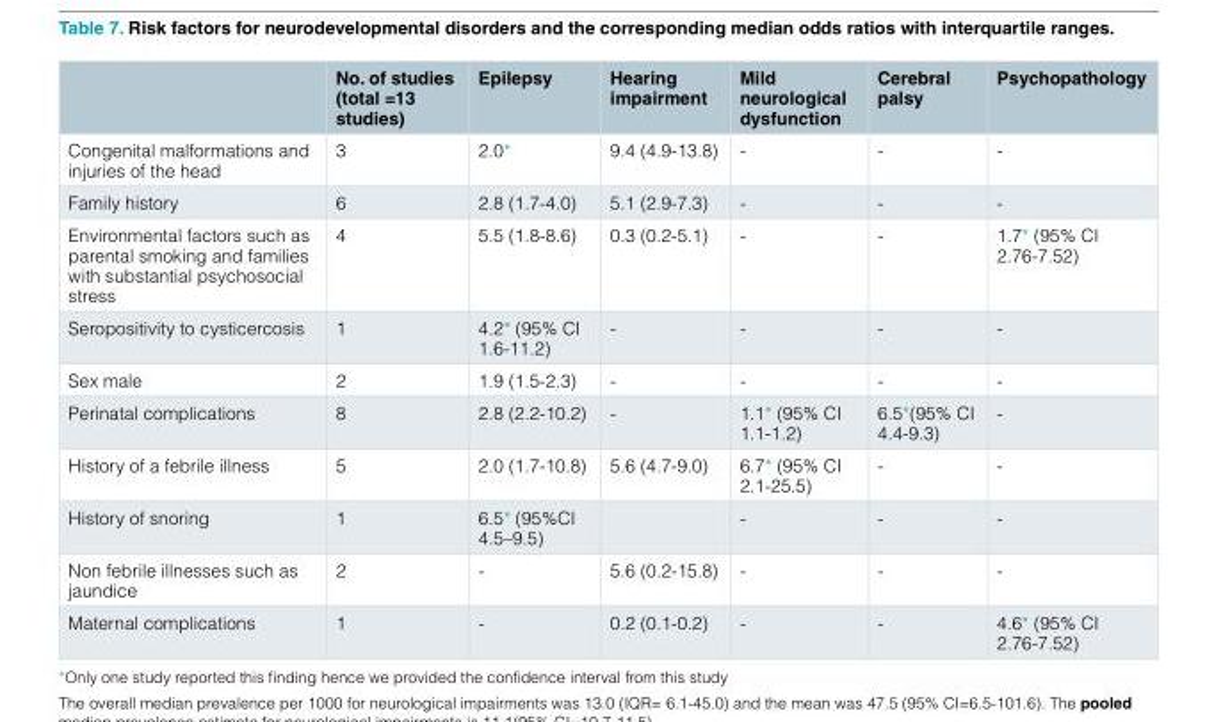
<table><thead><tr><td></td><td>No. of studies (total =13 studies)</td><td>Epilepsy</td><td>Hearing impairment</td><td>Mild neurological dysfunction</td><td>Cerebral palsy</td><td>Psychopathology</td></tr></thead><tbody><tr><td>Congenital malformations and injuries of the head</td><td>3</td><td>2.0*</td><td>9.4 (4.9-13.8)</td><td>-</td><td>-</td><td>-</td></tr><tr><td>Family history</td><td>6</td><td>2.8 (1.7-4.0)</td><td>5.1 (2.9-7.3)</td><td>-</td><td>-</td><td>-</td></tr><tr><td>Environmental factors such as parental smoking and families with substantial psychosocial stress</td><td>4</td><td>5.5 (1.8-8.6)</td><td>0.3 (0.2-5.1)</td><td>-</td><td>-</td><td>1.7* (95% CI 2.76-7.52)</td></tr><tr><td>Seropositivity to cysticercosis</td><td>1</td><td>4.2* (95% CI 1.6-11.2)</td><td>-</td><td>-</td><td>-</td><td>-</td></tr><tr><td>Sex male</td><td>2</td><td>1.9 (1.5-2.3)</td><td>-</td><td>-</td><td>-</td><td>-</td></tr><tr><td>Perinatal complications</td><td>8</td><td>2.8 (2.2-10.2)</td><td>-</td><td>1.1* (95% CI 1.1-1.2)</td><td>6.5*(95% CI 4.4-9.3)</td><td>-</td></tr><tr><td>History of a febrile illness</td><td>5</td><td>2.0 (1.7-10.8)</td><td>5.6 (4.7-9.0)</td><td>6.7* (95% CI 2.1-25.5)</td><td>-</td><td>-</td></tr><tr><td>History of snoring</td><td>1</td><td>6.5* (95%CI 4.5–9.5)</td><td></td><td>-</td><td>-</td><td>-</td></tr><tr><td>Non febrile illnesses such as jaundice</td><td>2</td><td>-</td><td>5.6 (0.2-15.8)</td><td>-</td><td>-</td><td>-</td></tr><tr><td>Maternal complications</td><td>1</td><td>-</td><td>0.2 (0.1-0.2)</td><td>-</td><td>-</td><td>4.6* (95% CI 2.76-7.52)</td></tr></tbody></table>